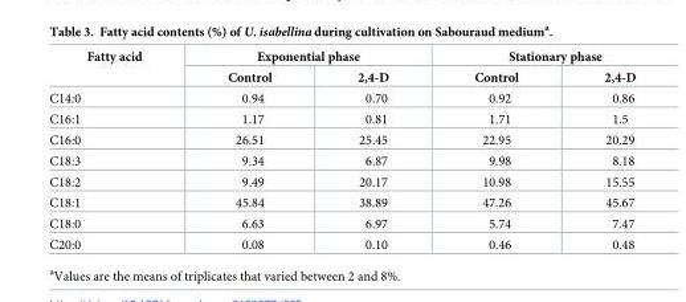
<table><thead><tr><td rowspan="2">Fatty acid</td><td colspan="2">Exponential phase</td><td colspan="2">Stationary phase</td></tr><tr><td>Control</td><td>2,4-D</td><td>Control</td><td>2,4-D</td></tr></thead><tbody><tr><td>C14:0</td><td>0.94</td><td>0.70</td><td>0.92</td><td>0.86</td></tr><tr><td>C16:1</td><td>1.17</td><td>0.81</td><td>1.71</td><td>1.5</td></tr><tr><td>C16:0</td><td>26.51</td><td>25.45</td><td>22.95</td><td>20.29</td></tr><tr><td>C18:3</td><td>9.34</td><td>6.87</td><td>9.98</td><td>8.18</td></tr><tr><td>C18:2</td><td>9.49</td><td>20.17</td><td>10.98</td><td>15.55</td></tr><tr><td>C18:1</td><td>45.84</td><td>38.89</td><td>47.26</td><td>45.67</td></tr><tr><td>C18:0</td><td>6.63</td><td>6.97</td><td>5.74</td><td>7.47</td></tr><tr><td>C20:0</td><td>0.08</td><td>0.10</td><td>0.46</td><td>0.48</td></tr></tbody></table>